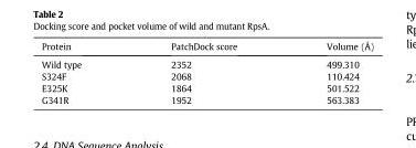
<table><thead><tr><td>Protein</td><td>PatchDock score</td><td>Volume (Å)</td></tr></thead><tbody><tr><td>Wild type</td><td>2352</td><td>499.310</td></tr><tr><td>S324F</td><td>2068</td><td>110.424</td></tr><tr><td>E325K</td><td>1864</td><td>501.522</td></tr><tr><td>G341R</td><td>1952</td><td>563.383</td></tr></tbody></table>